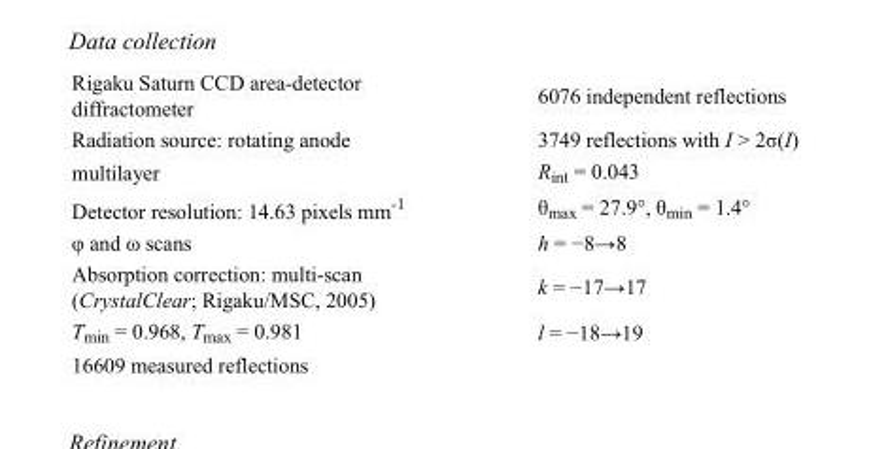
<table><tbody><tr><td>Rigaku Saturn CCD area-detector diffractometer</td><td>6076 independent reflections</td></tr><tr><td>Radiation source: rotating anode</td><td>3749 reflections with I &gt; 2σ(I)</td></tr><tr><td>multilayer</td><td>R<sub>int</sub> = 0.043</td></tr><tr><td>Detector resolution: 14.63 pixels mm<sup>-1</sup></td><td>θ<sub>max</sub> = 27.9°, θ<sub>min</sub> = 1.4°</td></tr><tr><td>φ and ω scans</td><td>h = −8→8</td></tr><tr><td>Absorption correction: multi-scan (CrystalClear; Rigaku/MSC, 2005)</td><td>k = −17→17</td></tr><tr><td>T<sub>min</sub> = 0.968, T<sub>max</sub> = 0.981</td><td>l = −18→19</td></tr><tr><td>16609 measured reflections</td><td></td></tr></tbody></table>